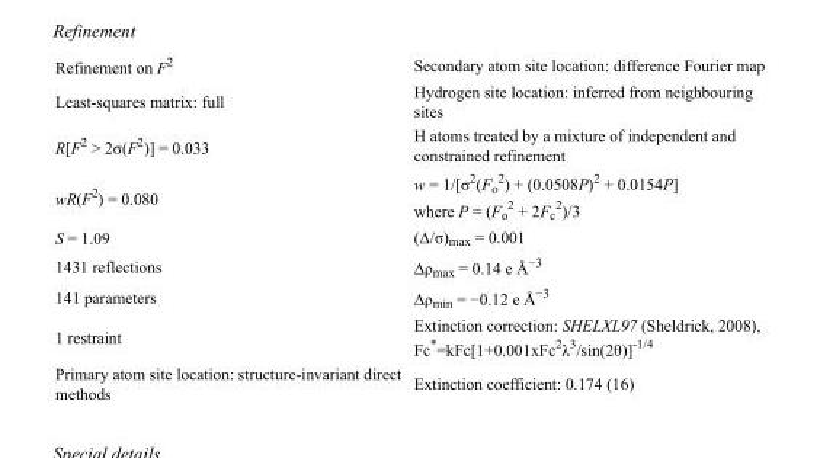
<table><tbody><tr><td>Refinement on F<sup>2</sup></td><td>Secondary atom site location: difference Fourier map</td></tr><tr><td>Least-squares matrix: full</td><td>Hydrogen site location: inferred from neighbouring sites</td></tr><tr><td>R[F<sup>2</sup> &gt; 2σ(F<sup>2</sup>)] = 0.033</td><td>H atoms treated by a mixture of independent and constrained refinement</td></tr><tr><td>wR(F<sup>2</sup>) = 0.080</td><td>w = 1/[σ<sup>2</sup>(F<sub>o</sub> <sup>2</sup>) + (0.0508P)<sup>2</sup> + 0.0154P] where P = (F<sub>o</sub> <sup>2</sup> + 2F<sub>c</sub> <sup>2</sup>)/3</td></tr><tr><td>S = 1.09</td><td>(Δ/σ)<sub>max</sub> = 0.001</td></tr><tr><td>1431 reflections</td><td>Δρ<sub>max</sub> = 0.14 e Å<sup>−3</sup></td></tr><tr><td>141 parameters</td><td>Δρ<sub>min</sub> = −0.12 e Å<sup>−3</sup></td></tr><tr><td>1 restraint</td><td>Extinction correction: SHELXL97 (Sheldrick, 2008), Fc*=kFc[1+0.001xFc<sup>2</sup>λ<sup>3</sup>/sin(2θ)]<sup>-1/4</sup></td></tr><tr><td>Primary atom site location: structure-invariant direct methods</td><td>Extinction coefficient: 0.174 (16)</td></tr></tbody></table>